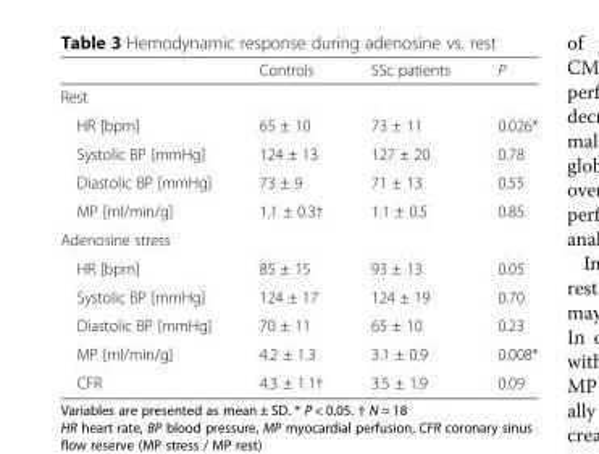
<table><thead><tr><td></td><td>Controls</td><td>SSc patients</td><td>P</td></tr></thead><tbody><tr><td colspan="4">Rest</td></tr><tr><td>HR [bpm]</td><td>65 ± 10</td><td>73 ± 11</td><td>0.026*</td></tr><tr><td>Systolic BP [mmHg]</td><td>124 ± 13</td><td>127 ± 20</td><td>0.78</td></tr><tr><td>Diastolic BP [mmHg]</td><td>73 ± 9</td><td>71 ± 13</td><td>0.55</td></tr><tr><td>MP [ml/min/g]</td><td>1.1 ± 0.3†</td><td>1.1 ± 0.5</td><td>0.85</td></tr><tr><td colspan="4">Adenosine stress</td></tr><tr><td>HR [bpm]</td><td>85 ± 15</td><td>93 ± 13</td><td>0.05</td></tr><tr><td>Systolic BP [mmHg]</td><td>124 ± 17</td><td>124 ± 19</td><td>0.70</td></tr><tr><td>Diastolic BP [mmHg]</td><td>70 ± 11</td><td>65 ± 10</td><td>0.23</td></tr><tr><td>MP [ml/min/g]</td><td>4.2 ± 1.3</td><td>3.1 ± 0.9</td><td>0.008*</td></tr><tr><td>CFR</td><td>4.3 ± 1.1†</td><td>3.5 ± 1.9</td><td>0.09</td></tr></tbody></table>